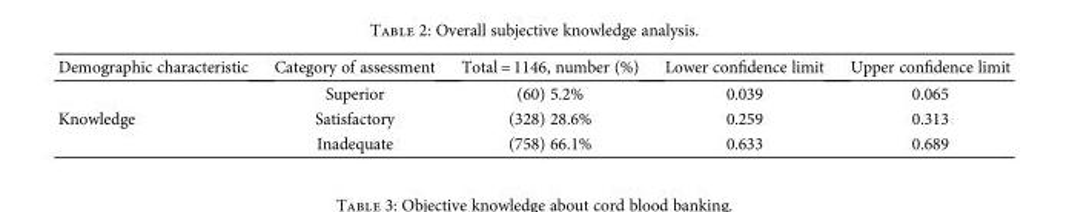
<table><thead><tr><td>Demographic characteristic</td><td>Category of assessment</td><td>Total = 1146, number (%)</td><td>Lower confidence limit</td><td>Upper confidence limit</td></tr></thead><tbody><tr><td rowspan="3">Knowledge</td><td>Superior</td><td>(60) 5.2%</td><td>0.039</td><td>0.065</td></tr><tr><td>Satisfactory</td><td>(328) 28.6%</td><td>0.259</td><td>0.313</td></tr><tr><td>Inadequate</td><td>(758) 66.1%</td><td>0.633</td><td>0.689</td></tr></tbody></table>